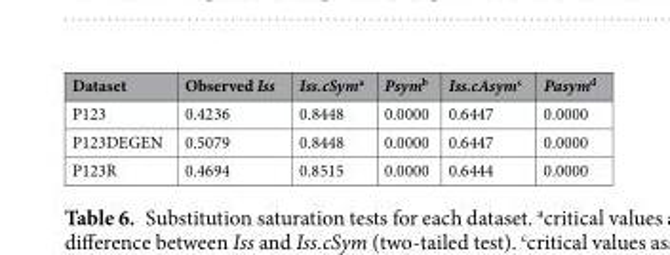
<table><thead><tr><td>Dataset</td><td>Observed Iss</td><td>Iss.cSym<sup>a</sup></td><td>Psym<sup>b</sup></td><td>Iss.cAsym<sup>c</sup></td><td>Pasym<sup>d</sup></td></tr></thead><tbody><tr><td>P123</td><td>0.4236</td><td>0.8448</td><td>0.0000</td><td>0.6447</td><td>0.0000</td></tr><tr><td>P123DEGEN</td><td>0.5079</td><td>0.8448</td><td>0.0000</td><td>0.6447</td><td>0.0000</td></tr><tr><td>P123R</td><td>0.4694</td><td>0.8515</td><td>0.0000</td><td>0.6444</td><td>0.0000</td></tr></tbody></table>